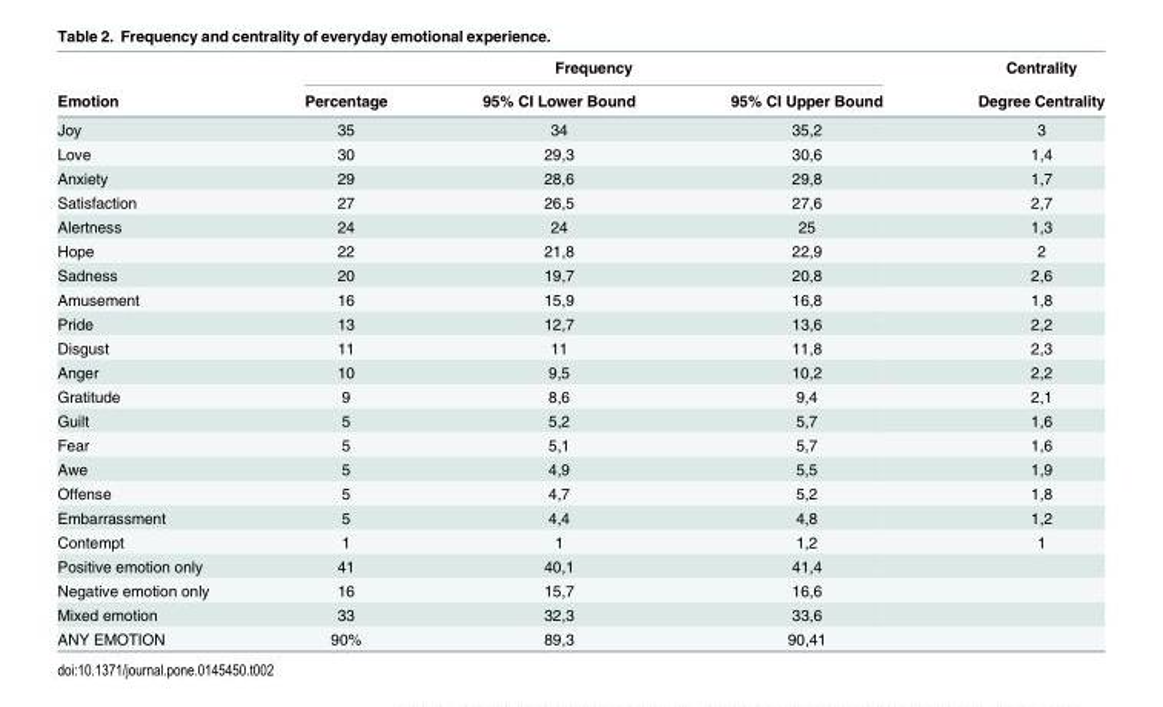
<table><thead><tr><td rowspan="2">Emotion</td><td colspan="3">Frequency</td><td rowspan="2">Centrality Degree Centrality</td></tr><tr><td>Percentage</td><td>95% CI Lower Bound</td><td>95% CI Upper Bound</td></tr></thead><tbody><tr><td>Joy</td><td>35</td><td>34</td><td>35,2</td><td>3</td></tr><tr><td>Love</td><td>30</td><td>29,3</td><td>30,6</td><td>1,4</td></tr><tr><td>Anxiety</td><td>29</td><td>28,6</td><td>29,8</td><td>1,7</td></tr><tr><td>Satisfaction</td><td>27</td><td>26,5</td><td>27,6</td><td>2,7</td></tr><tr><td>Alertness</td><td>24</td><td>24</td><td>25</td><td>1,3</td></tr><tr><td>Hope</td><td>22</td><td>21,8</td><td>22,9</td><td>2</td></tr><tr><td>Sadness</td><td>20</td><td>19,7</td><td>20,8</td><td>2,6</td></tr><tr><td>Amusement</td><td>16</td><td>15,9</td><td>16,8</td><td>1,8</td></tr><tr><td>Pride</td><td>13</td><td>12,7</td><td>13,6</td><td>2,2</td></tr><tr><td>Disgust</td><td>11</td><td>11</td><td>11,8</td><td>2,3</td></tr><tr><td>Anger</td><td>10</td><td>9,5</td><td>10,2</td><td>2,2</td></tr><tr><td>Gratitude</td><td>9</td><td>8,6</td><td>9,4</td><td>2,1</td></tr><tr><td>Guilt</td><td>5</td><td>5,2</td><td>5,7</td><td>1,6</td></tr><tr><td>Fear</td><td>5</td><td>5,1</td><td>5,7</td><td>1,6</td></tr><tr><td>Awe</td><td>5</td><td>4,9</td><td>5,5</td><td>1,9</td></tr><tr><td>Offense</td><td>5</td><td>4,7</td><td>5,2</td><td>1,8</td></tr><tr><td>Embarrassment</td><td>5</td><td>4,4</td><td>4,8</td><td>1,2</td></tr><tr><td>Contempt</td><td>1</td><td>1</td><td>1,2</td><td>1</td></tr><tr><td>Positive emotion only</td><td>41</td><td>40,1</td><td>41,4</td><td></td></tr><tr><td>Negative emotion only</td><td>16</td><td>15,7</td><td>16,6</td><td></td></tr><tr><td>Mixed emotion</td><td>33</td><td>32,3</td><td>33,6</td><td></td></tr><tr><td>ANY EMOTION</td><td>90%</td><td>89,3</td><td>90,41</td><td></td></tr></tbody></table>